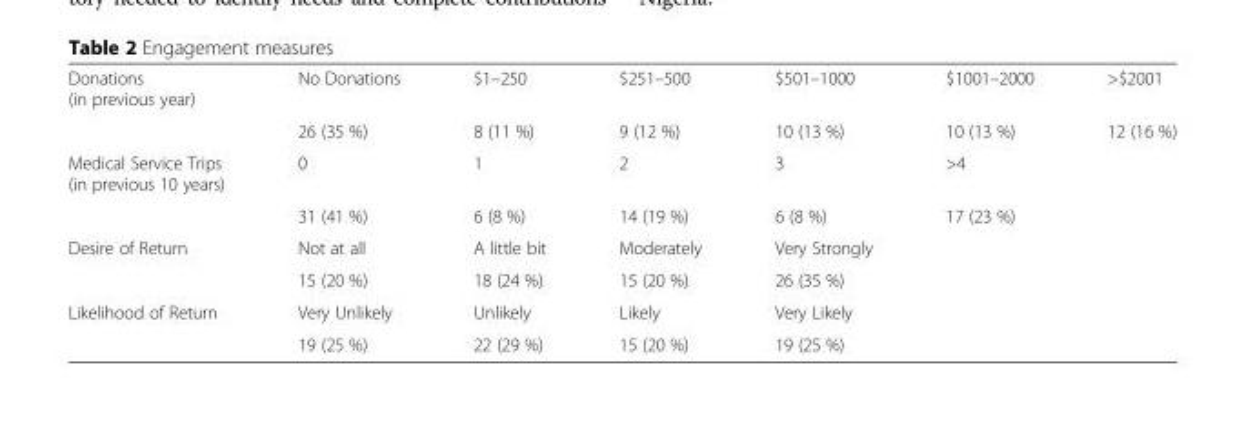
<table><tbody><tr><td rowspan="2">Donations (in previous year)</td><td>No Donations</td><td>$1–250</td><td>$251–500</td><td>$501–1000</td><td>$1001–2000</td><td>&gt;$2001</td></tr><tr><td>26 (35 %)</td><td>8 (11 %)</td><td>9 (12 %)</td><td>10 (13 %)</td><td>10 (13 %)</td><td>12 (16 %)</td></tr><tr><td rowspan="2">Medical Service Trips (in previous 10 years)</td><td>0</td><td>1</td><td>2</td><td>3</td><td>&gt;4</td><td></td></tr><tr><td>31 (41 %)</td><td>6 (8 %)</td><td>14 (19 %)</td><td>6 (8 %)</td><td>17 (23 %)</td><td></td></tr><tr><td rowspan="2">Desire of Return</td><td>Not at all</td><td>A little bit</td><td>Moderately</td><td>Very Strongly</td><td></td><td></td></tr><tr><td>15 (20 %)</td><td>18 (24 %)</td><td>15 (20 %)</td><td>26 (35 %)</td><td></td><td></td></tr><tr><td rowspan="2">Likelihood of Return</td><td>Very Unlikely</td><td>Unlikely</td><td>Likely</td><td>Very Likely</td><td></td><td></td></tr><tr><td>19 (25 %)</td><td>22 (29 %)</td><td>15 (20 %)</td><td>19 (25 %)</td><td></td><td></td></tr></tbody></table>